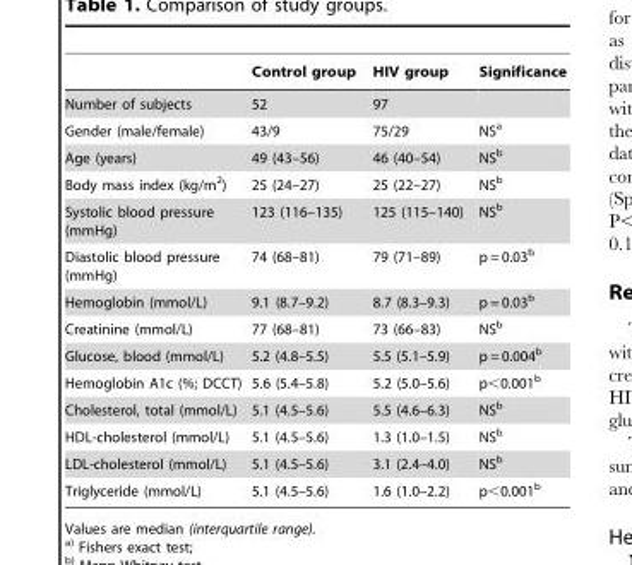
<table><thead><tr><td></td><td>Control group</td><td>HIV group</td><td>Significance</td></tr></thead><tbody><tr><td>Number of subjects</td><td>52</td><td>97</td><td></td></tr><tr><td>Gender (male/female)</td><td>43/9</td><td>75/29</td><td>NS<sup>a</sup></td></tr><tr><td>Age (years)</td><td>49 (43–56)</td><td>46 (40–54)</td><td>NS<sup>b</sup></td></tr><tr><td>Body mass index (kg/m<sup>2</sup>)</td><td>25 (24–27)</td><td>25 (22–27)</td><td>NS<sup>b</sup></td></tr><tr><td>Systolic blood pressure (mmHg)</td><td>123 (116–135)</td><td>125 (115–140)</td><td>NS<sup>b</sup></td></tr><tr><td>Diastolic blood pressure (mmHg)</td><td>74 (68–81)</td><td>79 (71–89)</td><td>p = 0.03<sup>b</sup></td></tr><tr><td>Hemoglobin (mmol/L)</td><td>9.1 (8.7–9.2)</td><td>8.7 (8.3–9.3)</td><td>p = 0.03<sup>b</sup></td></tr><tr><td>Creatinine (mmol/L)</td><td>77 (68–81)</td><td>73 (66–83)</td><td>NS<sup>b</sup></td></tr><tr><td>Glucose, blood (mmol/L)</td><td>5.2 (4.8–5.5)</td><td>5.5 (5.1–5.9)</td><td>p = 0.004<sup>b</sup></td></tr><tr><td>Hemoglobin A1c (%; DCCT)</td><td>5.6 (5.4–5.8)</td><td>5.2 (5.0–5.6)</td><td>p&lt;0.001<sup>b</sup></td></tr><tr><td>Cholesterol, total (mmol/L)</td><td>5.1 (4.5–5.6)</td><td>5.5 (4.6–6.3)</td><td>NS<sup>b</sup></td></tr><tr><td>HDL-cholesterol (mmol/L)</td><td>5.1 (4.5–5.6)</td><td>1.3 (1.0–1.5)</td><td>NS<sup>b</sup></td></tr><tr><td>LDL-cholesterol (mmol/L)</td><td>5.1 (4.5–5.6)</td><td>3.1 (2.4–4.0)</td><td>NS<sup>b</sup></td></tr><tr><td>Triglyceride (mmol/L)</td><td>5.1 (4.5–5.6)</td><td>1.6 (1.0–2.2)</td><td>p&lt;0.001<sup>b</sup></td></tr></tbody></table>